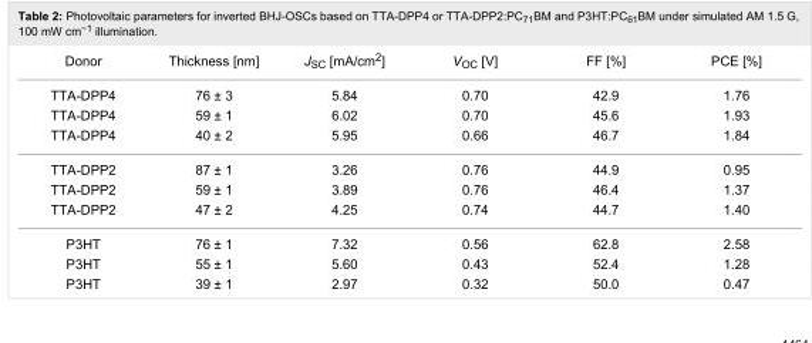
<table><tbody><tr><td>Donor</td><td>Thickness [nm]</td><td>J<sub>SC</sub> [mA/cm<sup>2</sup>]</td><td>V<sub>OC</sub> [V]</td><td>FF [%]</td><td>PCE [%]</td></tr><tr><td>TTA-DPP4</td><td>76 ± 3</td><td>5.84</td><td>0.70</td><td>42.9</td><td>1.76</td></tr><tr><td>TTA-DPP4</td><td>59 ± 1</td><td>6.02</td><td>0.70</td><td>45.6</td><td>1.93</td></tr><tr><td>TTA-DPP4</td><td>40 ± 2</td><td>5.95</td><td>0.66</td><td>46.7</td><td>1.84</td></tr><tr><td>TTA-DPP2</td><td>87 ± 1</td><td>3.26</td><td>0.76</td><td>44.9</td><td>0.95</td></tr><tr><td>TTA-DPP2</td><td>59 ± 1</td><td>3.89</td><td>0.76</td><td>46.4</td><td>1.37</td></tr><tr><td>TTA-DPP2</td><td>47 ± 2</td><td>4.25</td><td>0.74</td><td>44.7</td><td>1.40</td></tr><tr><td>P3HT</td><td>76 ± 1</td><td>7.32</td><td>0.56</td><td>62.8</td><td>2.58</td></tr><tr><td>P3HT</td><td>55 ± 1</td><td>5.60</td><td>0.43</td><td>52.4</td><td>1.28</td></tr><tr><td>P3HT</td><td>39 ± 1</td><td>2.97</td><td>0.32</td><td>50.0</td><td>0.47</td></tr></tbody></table>